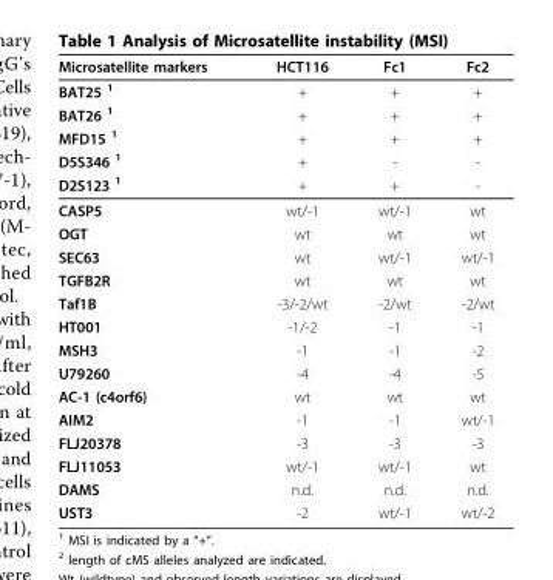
<table><thead><tr><td>Microsatellite markers</td><td>HCT116</td><td>Fc1</td><td>Fc2</td></tr></thead><tbody><tr><td>BAT25 <sup>1</sup></td><td>+</td><td>+</td><td>+</td></tr><tr><td>BAT26 <sup>1</sup></td><td>+</td><td>+</td><td>+</td></tr><tr><td>MFD15 <sup>1</sup></td><td>+</td><td>+</td><td>+</td></tr><tr><td>D5S346 <sup>1</sup></td><td>+</td><td>-</td><td>-</td></tr><tr><td>D2S123 <sup>1</sup></td><td>+</td><td>+</td><td>-</td></tr><tr><td>CASP5</td><td>wt/-1</td><td>wt/-1</td><td>wt</td></tr><tr><td>OGT</td><td>wt</td><td>wt</td><td>wt</td></tr><tr><td>SEC63</td><td>wt</td><td>wt/-1</td><td>wt/-1</td></tr><tr><td>TGFB2R</td><td>wt</td><td>wt</td><td>wt</td></tr><tr><td>Taf1B</td><td>-3/-2/wt</td><td>-2/wt</td><td>-2/wt</td></tr><tr><td>HT001</td><td>-1/-2</td><td>-1</td><td>-1</td></tr><tr><td>MSH3</td><td>-1</td><td>-1</td><td>-2</td></tr><tr><td>U79260</td><td>-4</td><td>-4</td><td>-5</td></tr><tr><td>AC-1 (c4orf6)</td><td>wt</td><td>wt</td><td>wt</td></tr><tr><td>AIM2</td><td>-1</td><td>-1</td><td>wt/-1</td></tr><tr><td>FLJ20378</td><td>-3</td><td>-3</td><td>-3</td></tr><tr><td>FLJ11053</td><td>wt/-1</td><td>wt/-1</td><td>wt</td></tr><tr><td>DAMS</td><td>n.d.</td><td>n.d.</td><td>n.d.</td></tr><tr><td>UST3</td><td>-2</td><td>wt/-1</td><td>wt/-2</td></tr></tbody></table>